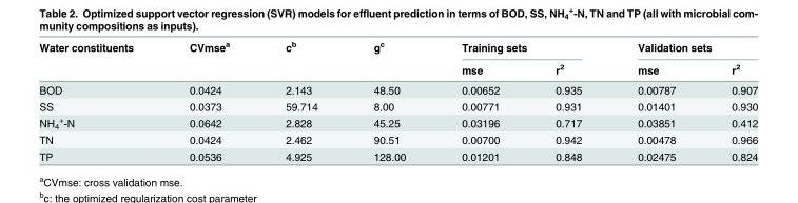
<table><thead><tr><td rowspan="2">Water constituents</td><td rowspan="2">CVmse<sup>a</sup></td><td rowspan="2">c<sup>b</sup></td><td rowspan="2">g<sup>c</sup></td><td colspan="2">Training sets</td><td colspan="2">Validation sets</td></tr><tr><td>mse</td><td>r<sup>2</sup></td><td>mse</td><td>r<sup>2</sup></td></tr></thead><tbody><tr><td>BOD</td><td>0.0424</td><td>2.143</td><td>48.50</td><td>0.00652</td><td>0.935</td><td>0.00787</td><td>0.907</td></tr><tr><td>SS</td><td>0.0373</td><td>59.714</td><td>8.00</td><td>0.00771</td><td>0.931</td><td>0.01401</td><td>0.930</td></tr><tr><td>NH<sub>4</sub> <sup>+</sup>-N</td><td>0.0642</td><td>2.828</td><td>45.25</td><td>0.03196</td><td>0.717</td><td>0.03851</td><td>0.412</td></tr><tr><td>TN</td><td>0.0424</td><td>2.462</td><td>90.51</td><td>0.00700</td><td>0.942</td><td>0.00478</td><td>0.966</td></tr><tr><td>TP</td><td>0.0536</td><td>4.925</td><td>128.00</td><td>0.01201</td><td>0.848</td><td>0.02475</td><td>0.824</td></tr></tbody></table>